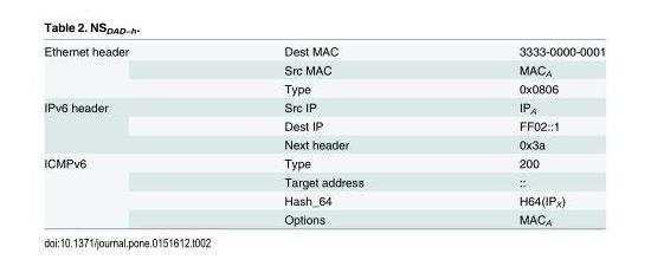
<table><tbody><tr><td rowspan="3">Ethernet header</td><td>Dest MAC</td><td>3333-0000-0001</td></tr><tr><td>Src MAC</td><td>MAC<sub>A</sub></td></tr><tr><td>Type</td><td>0x0806</td></tr><tr><td rowspan="3">IPv6 header</td><td>Src IP</td><td>IP<sub>A</sub></td></tr><tr><td>Dest IP</td><td>FF02::1</td></tr><tr><td>Next header</td><td>0x3a</td></tr><tr><td rowspan="4">ICMPv6</td><td>Type</td><td>200</td></tr><tr><td>Target address</td><td>::</td></tr><tr><td>Hash_64</td><td>H64(IP<sub>X</sub>)</td></tr><tr><td>Options</td><td>MAC<sub>A</sub></td></tr></tbody></table>